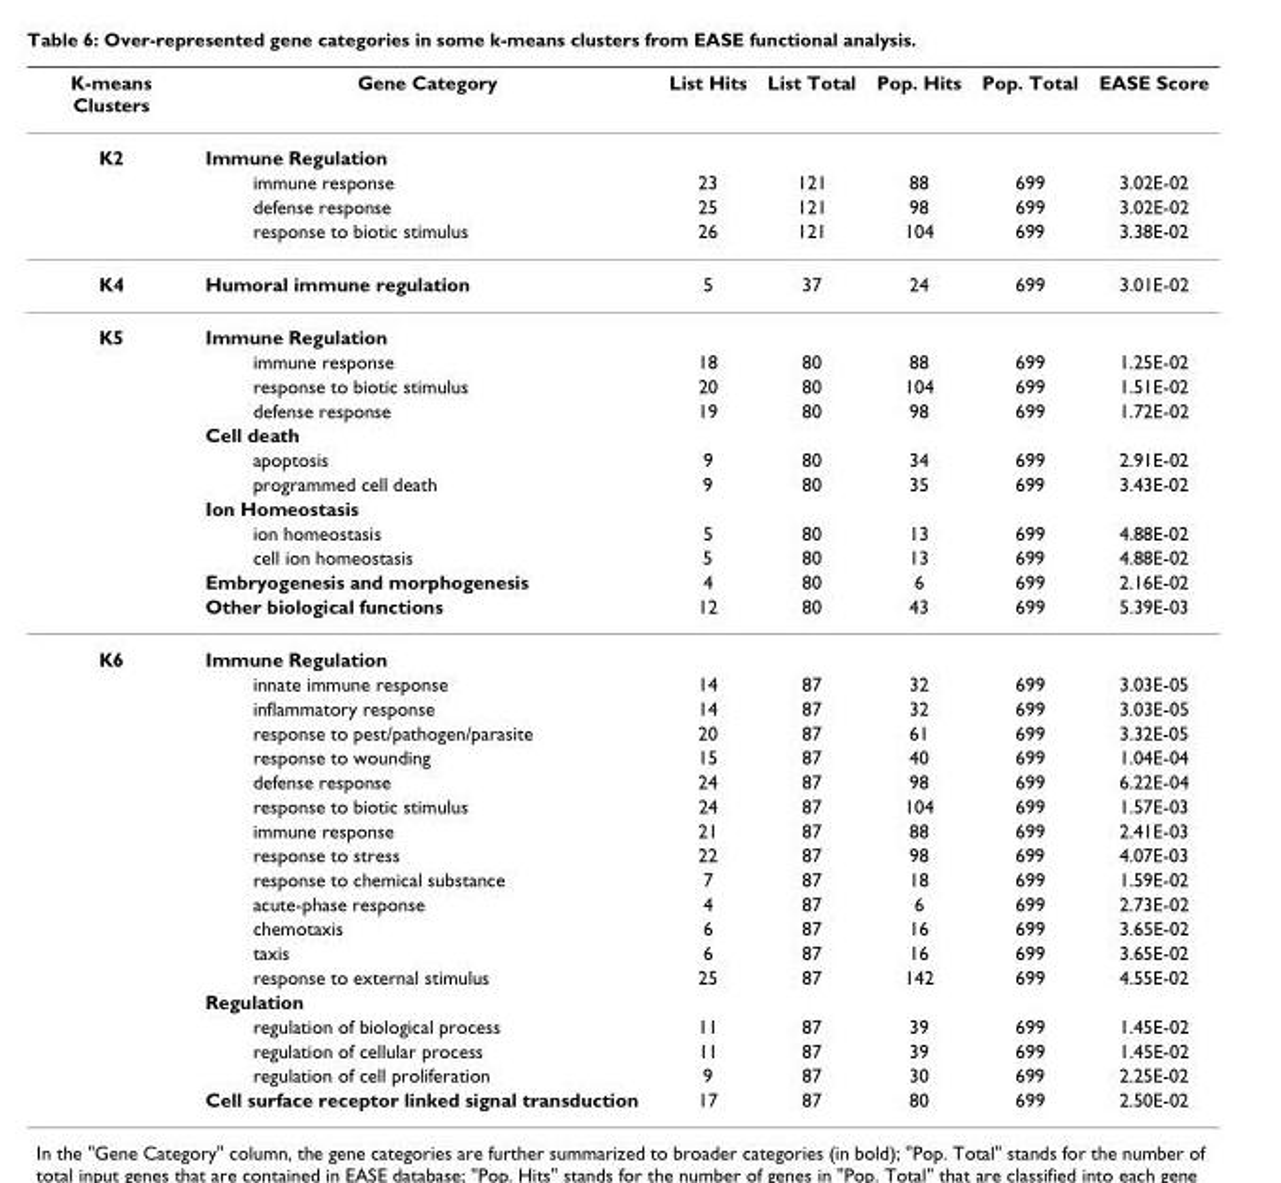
<table><thead><tr><td>K-means Clusters</td><td>Gene Category</td><td>List Hits</td><td>List Total</td><td>Pop. Hits</td><td>Pop. Total</td><td>EASE Score</td></tr></thead><tbody><tr><td rowspan="4">K2</td><td>Immune Regulation</td><td></td><td></td><td></td><td></td><td></td></tr><tr><td>immune response</td><td>23</td><td>121</td><td>88</td><td>699</td><td>3.02E-02</td></tr><tr><td>defense response</td><td>25</td><td>121</td><td>98</td><td>699</td><td>3.02E-02</td></tr><tr><td>response to biotic stimulus</td><td>26</td><td>121</td><td>104</td><td>699</td><td>3.38E-02</td></tr><tr><td>K4</td><td>Humoral immune regulation</td><td>5</td><td>37</td><td>24</td><td>699</td><td>3.01E-02</td></tr><tr><td rowspan="12">K5</td><td>Immune Regulation</td><td></td><td></td><td></td><td></td><td></td></tr><tr><td>immune response</td><td>18</td><td>80</td><td>88</td><td>699</td><td>1.25E-02</td></tr><tr><td>response to biotic stimulus</td><td>20</td><td>80</td><td>104</td><td>699</td><td>1.51E-02</td></tr><tr><td>defense response</td><td>19</td><td>80</td><td>98</td><td>699</td><td>1.72E-02</td></tr><tr><td>Cell death</td><td></td><td></td><td></td><td></td><td></td></tr><tr><td>apoptosis</td><td>9</td><td>80</td><td>34</td><td>699</td><td>2.91E-02</td></tr><tr><td>programmed cell death</td><td>9</td><td>80</td><td>35</td><td>699</td><td>3.43E-02</td></tr><tr><td>Ion Homeostasis</td><td></td><td></td><td></td><td></td><td></td></tr><tr><td>ion homeostasis</td><td>5</td><td>80</td><td>13</td><td>699</td><td>4.88E-02</td></tr><tr><td>cell ion homeostasis</td><td>5</td><td>80</td><td>13</td><td>699</td><td>4.88E-02</td></tr><tr><td>Embryogenesis and morphogenesis</td><td>4</td><td>80</td><td>6</td><td>699</td><td>2.16E-02</td></tr><tr><td>Other biological functions</td><td>12</td><td>80</td><td>43</td><td>699</td><td>5.39E-03</td></tr><tr><td rowspan="19">K6</td><td>Immune Regulation</td><td></td><td></td><td></td><td></td><td></td></tr><tr><td>innate immune response</td><td>14</td><td>87</td><td>32</td><td>699</td><td>3.03E-05</td></tr><tr><td>inflammatory response</td><td>14</td><td>87</td><td>32</td><td>699</td><td>3.03E-05</td></tr><tr><td>response to pest/pathogen/parasite</td><td>20</td><td>87</td><td>61</td><td>699</td><td>3.32E-05</td></tr><tr><td>response to wounding</td><td>15</td><td>87</td><td>40</td><td>699</td><td>1.04E-04</td></tr><tr><td>defense response</td><td>24</td><td>87</td><td>98</td><td>699</td><td>6.22E-04</td></tr><tr><td>response to biotic stimulus</td><td>24</td><td>87</td><td>104</td><td>699</td><td>1.57E-03</td></tr><tr><td>immune response</td><td>21</td><td>87</td><td>88</td><td>699</td><td>2.41E-03</td></tr><tr><td>response to stress</td><td>22</td><td>87</td><td>98</td><td>699</td><td>4.07E-03</td></tr><tr><td>response to chemical substance</td><td>7</td><td>87</td><td>18</td><td>699</td><td>1.59E-02</td></tr><tr><td>acute-phase response</td><td>4</td><td>87</td><td>6</td><td>699</td><td>2.73E-02</td></tr><tr><td>chemotaxis</td><td>6</td><td>87</td><td>16</td><td>699</td><td>3.65E-02</td></tr><tr><td>taxis</td><td>6</td><td>87</td><td>16</td><td>699</td><td>3.65E-02</td></tr><tr><td>response to external stimulus</td><td>25</td><td>87</td><td>142</td><td>699</td><td>4.55E-02</td></tr><tr><td>Regulation</td><td></td><td></td><td></td><td></td><td></td></tr><tr><td>regulation of biological process</td><td>11</td><td>87</td><td>39</td><td>699</td><td>1.45E-02</td></tr><tr><td>regulation of cellular process</td><td>11</td><td>87</td><td>39</td><td>699</td><td>1.45E-02</td></tr><tr><td>regulation of cell proliferation</td><td>9</td><td>87</td><td>30</td><td>699</td><td>2.25E-02</td></tr><tr><td>Cell surface receptor linked signal transduction</td><td>17</td><td>87</td><td>80</td><td>699</td><td>2.50E-02</td></tr></tbody></table>